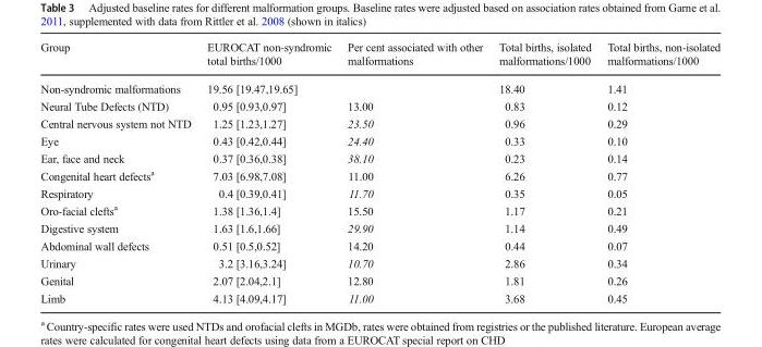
<table><thead><tr><td>Group</td><td>EUROCAT non-syndromic total births/1000</td><td>Per cent associated with other malformations</td><td>Total births, isolated malformations/1000</td><td>Total births, non-isolated malformations/1000</td></tr></thead><tbody><tr><td>Non-syndromic malformations</td><td>19.56 [19.47,19.65]</td><td></td><td>18.40</td><td>1.41</td></tr><tr><td>Neural Tube Defects (NTD)</td><td>0.95 [0.93,0.97]</td><td>13.00</td><td>0.83</td><td>0.12</td></tr><tr><td>Central nervous system not NTD</td><td>1.25 [1.23,1.27]</td><td>23.50</td><td>0.96</td><td>0.29</td></tr><tr><td>Eye</td><td>0.43 [0.42,0.44]</td><td>24.40</td><td>0.33</td><td>0.10</td></tr><tr><td>Ear, face and neck</td><td>0.37 [0.36,0.38]</td><td>38.10</td><td>0.23</td><td>0.14</td></tr><tr><td>Congenital heart defects<sup>a</sup></td><td>7.03 [6.98,7.08]</td><td>11.00</td><td>6.26</td><td>0.77</td></tr><tr><td>Respiratory</td><td>0.4 [0.39,0.41]</td><td>11.70</td><td>0.35</td><td>0.05</td></tr><tr><td>Oro-facial clefts<sup>a</sup></td><td>1.38 [1.36,1.4]</td><td>15.50</td><td>1.17</td><td>0.21</td></tr><tr><td>Digestive system</td><td>1.63 [1.6,1.66]</td><td>29.90</td><td>1.14</td><td>0.49</td></tr><tr><td>Abdominal wall defects</td><td>0.51 [0.5,0.52]</td><td>14.20</td><td>0.44</td><td>0.07</td></tr><tr><td>Urinary</td><td>3.2 [3.16,3.24]</td><td>10.70</td><td>2.86</td><td>0.34</td></tr><tr><td>Genital</td><td>2.07 [2.04,2.1]</td><td>12.80</td><td>1.81</td><td>0.26</td></tr><tr><td>Limb</td><td>4.13 [4.09,4.17]</td><td>11.00</td><td>3.68</td><td>0.45</td></tr></tbody></table>